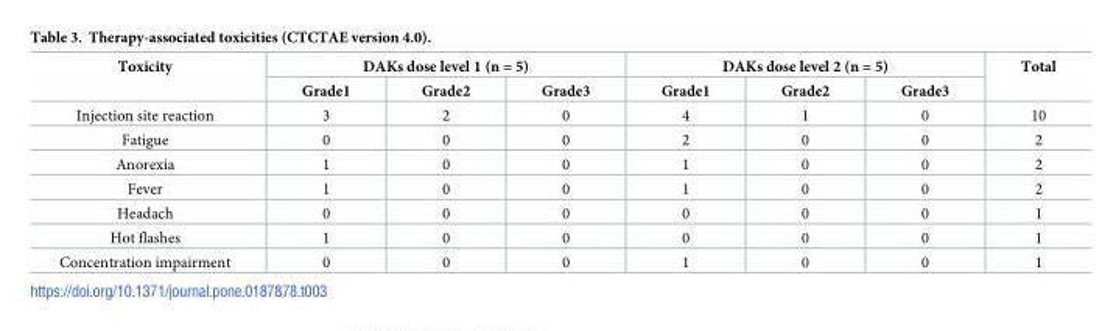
<table><thead><tr><td rowspan="2">Toxicity</td><td colspan="3">DAKs dose level 1 (n = 5)</td><td colspan="3">DAKs dose level 2 (n = 5)</td><td rowspan="2">Total</td></tr><tr><td>Grade1</td><td>Grade2</td><td>Grade3</td><td>Grade1</td><td>Grade2</td><td>Grade3</td></tr></thead><tbody><tr><td>Injection site reaction</td><td>3</td><td>2</td><td>0</td><td>4</td><td>1</td><td>0</td><td>10</td></tr><tr><td>Fatigue</td><td>0</td><td>0</td><td>0</td><td>2</td><td>0</td><td>0</td><td>2</td></tr><tr><td>Anorexia</td><td>1</td><td>0</td><td>0</td><td>1</td><td>0</td><td>0</td><td>2</td></tr><tr><td>Fever</td><td>1</td><td>0</td><td>0</td><td>1</td><td>0</td><td>0</td><td>2</td></tr><tr><td>Headach</td><td>0</td><td>0</td><td>0</td><td>0</td><td>0</td><td>0</td><td>1</td></tr><tr><td>Hot flashes</td><td>1</td><td>0</td><td>0</td><td>0</td><td>0</td><td>0</td><td>1</td></tr><tr><td>Concentration impairment</td><td>0</td><td>0</td><td>0</td><td>1</td><td>0</td><td>0</td><td>1</td></tr></tbody></table>